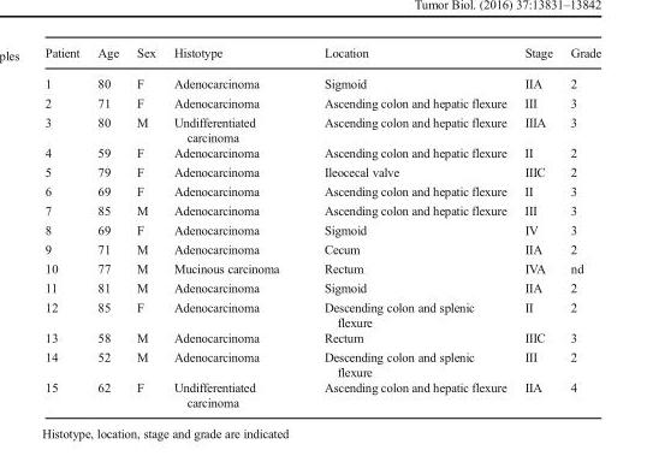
<table><thead><tr><td>Patient</td><td>Age</td><td>Sex</td><td>Histotype</td><td>Location</td><td>Stage</td><td>Grade</td></tr></thead><tbody><tr><td>1</td><td>80</td><td>F</td><td>Adenocarcinoma</td><td>Sigmoid</td><td>IIA</td><td>2</td></tr><tr><td>2</td><td>71</td><td>F</td><td>Adenocarcinoma</td><td>Ascending colon and hepatic flexure</td><td>III</td><td>3</td></tr><tr><td>3</td><td>80</td><td>M</td><td>Undifferentiated carcinoma</td><td>Ascending colon and hepatic flexure</td><td>IIIA</td><td>3</td></tr><tr><td>4</td><td>59</td><td>F</td><td>Adenocarcinoma</td><td>Ascending colon and hepatic flexure</td><td>II</td><td>2</td></tr><tr><td>5</td><td>79</td><td>F</td><td>Adenocarcinoma</td><td>Ileocecal valve</td><td>IIIC</td><td>2</td></tr><tr><td>6</td><td>69</td><td>F</td><td>Adenocarcinoma</td><td>Ascending colon and hepatic flexure</td><td>II</td><td>3</td></tr><tr><td>7</td><td>85</td><td>M</td><td>Adenocarcinoma</td><td>Ascending colon and hepatic flexure</td><td>III</td><td>3</td></tr><tr><td>8</td><td>69</td><td>F</td><td>Adenocarcinoma</td><td>Sigmoid</td><td>IV</td><td>3</td></tr><tr><td>9</td><td>71</td><td>M</td><td>Adenocarcinoma</td><td>Cecum</td><td>IIA</td><td>2</td></tr><tr><td>10</td><td>77</td><td>M</td><td>Mucinous carcinoma</td><td>Rectum</td><td>IVA</td><td>nd</td></tr><tr><td>11</td><td>81</td><td>M</td><td>Adenocarcinoma</td><td>Sigmoid</td><td>IIA</td><td>2</td></tr><tr><td>12</td><td>85</td><td>F</td><td>Adenocarcinoma</td><td>Descending colon and splenic flexure</td><td>II</td><td>2</td></tr><tr><td>13</td><td>58</td><td>M</td><td>Adenocarcinoma</td><td>Rectum</td><td>IIIC</td><td>3</td></tr><tr><td>14</td><td>52</td><td>M</td><td>Adenocarcinoma</td><td>Descending colon and splenic flexure</td><td>III</td><td>2</td></tr><tr><td>15</td><td>62</td><td>F</td><td>Undifferentiated carcinoma</td><td>Ascending colon and hepatic flexure</td><td>IIA</td><td>4</td></tr></tbody></table>